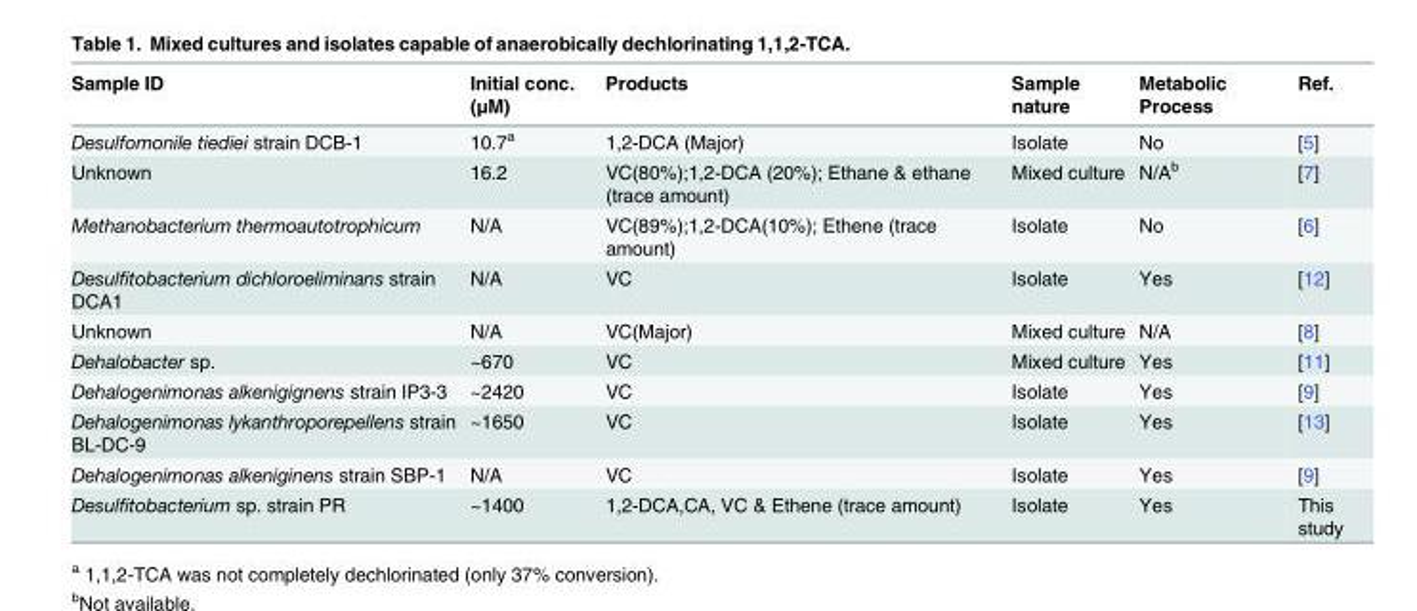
<table><thead><tr><td>Sample ID</td><td>Initial conc. (μM)</td><td>Products</td><td>Sample nature</td><td>Metabolic Process</td><td>Ref.</td></tr></thead><tbody><tr><td>Desulfomonile tiediei strain DCB-1</td><td>10.7<sup>a</sup></td><td>1,2-DCA (Major)</td><td>Isolate</td><td>No</td><td>[5]</td></tr><tr><td>Unknown</td><td>16.2</td><td>VC(80%);1,2-DCA (20%); Ethane &amp; ethane (trace amount)</td><td>Mixed culture</td><td>N/A<sup>b</sup></td><td>[7]</td></tr><tr><td>Methanobacterium thermoautotrophicum</td><td>N/A</td><td>VC(89%);1,2-DCA(10%); Ethene (trace amount)</td><td>Isolate</td><td>No</td><td>[6]</td></tr><tr><td>Desulfitobacterium dichloroeliminans strain DCA1</td><td>N/A</td><td>VC</td><td>Isolate</td><td>Yes</td><td>[12]</td></tr><tr><td>Unknown</td><td>N/A</td><td>VC(Major)</td><td>Mixed culture</td><td>N/A</td><td>[8]</td></tr><tr><td>Dehalobacter sp.</td><td>~670</td><td>VC</td><td>Mixed culture</td><td>Yes</td><td>[11]</td></tr><tr><td>Dehalogenimonas alkenigignens strain IP3-3</td><td>~2420</td><td>VC</td><td>Isolate</td><td>Yes</td><td>[9]</td></tr><tr><td>Dehalogenimonas lykanthroporepellens strain BL-DC-9</td><td>~1650</td><td>VC</td><td>Isolate</td><td>Yes</td><td>[13]</td></tr><tr><td>Dehalogenimonas alkeniginens strain SBP-1</td><td>N/A</td><td>VC</td><td>Isolate</td><td>Yes</td><td>[9]</td></tr><tr><td>Desulfitobacterium sp. strain PR</td><td>~1400</td><td>1,2-DCA,CA, VC &amp; Ethene (trace amount)</td><td>Isolate</td><td>Yes</td><td>This study</td></tr></tbody></table>